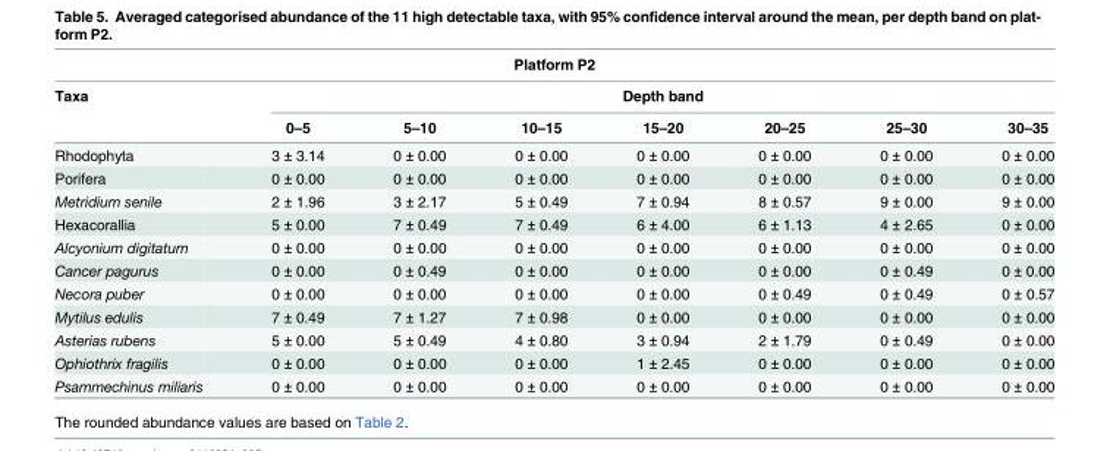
<table><thead><tr><td colspan="8">Platform P2</td></tr><tr><td rowspan="2">Taxa</td><td colspan="7">Depth band</td></tr><tr><td>0–5</td><td>5–10</td><td>10–15</td><td>15–20</td><td>20–25</td><td>25–30</td><td>30–35</td></tr></thead><tbody><tr><td>Rhodophyta</td><td>3 ± 3.14</td><td>0 ± 0.00</td><td>0 ± 0.00</td><td>0 ± 0.00</td><td>0 ± 0.00</td><td>0 ± 0.00</td><td>0 ± 0.00</td></tr><tr><td>Porifera</td><td>0 ± 0.00</td><td>0 ± 0.00</td><td>0 ± 0.00</td><td>0 ± 0.00</td><td>0 ± 0.00</td><td>0 ± 0.00</td><td>0 ± 0.00</td></tr><tr><td>Metridium senile</td><td>2 ± 1.96</td><td>3 ± 2.17</td><td>5 ± 0.49</td><td>7 ± 0.94</td><td>8 ± 0.57</td><td>9 ± 0.00</td><td>9 ± 0.00</td></tr><tr><td>Hexacorallia</td><td>5 ± 0.00</td><td>7 ± 0.49</td><td>7 ± 0.49</td><td>6 ± 4.00</td><td>6 ± 1.13</td><td>4 ± 2.65</td><td>0 ± 0.00</td></tr><tr><td>Alcyonium digitatum</td><td>0 ± 0.00</td><td>0 ± 0.00</td><td>0 ± 0.00</td><td>0 ± 0.00</td><td>0 ± 0.00</td><td>0 ± 0.00</td><td>0 ± 0.00</td></tr><tr><td>Cancer pagurus</td><td>0 ± 0.00</td><td>0 ± 0.49</td><td>0 ± 0.00</td><td>0 ± 0.00</td><td>0 ± 0.00</td><td>0 ± 0.49</td><td>0 ± 0.00</td></tr><tr><td>Necora puber</td><td>0 ± 0.00</td><td>0 ± 0.00</td><td>0 ± 0.00</td><td>0 ± 0.00</td><td>0 ± 0.49</td><td>0 ± 0.49</td><td>0 ± 0.57</td></tr><tr><td>Mytilus edulis</td><td>7 ± 0.49</td><td>7 ± 1.27</td><td>7 ± 0.98</td><td>0 ± 0.00</td><td>0 ± 0.00</td><td>0 ± 0.00</td><td>0 ± 0.00</td></tr><tr><td>Asterias rubens</td><td>5 ± 0.00</td><td>5 ± 0.49</td><td>4 ± 0.80</td><td>3 ± 0.94</td><td>2 ± 1.79</td><td>0 ± 0.49</td><td>0 ± 0.00</td></tr><tr><td>Ophiothrix fragilis</td><td>0 ± 0.00</td><td>0 ± 0.00</td><td>0 ± 0.00</td><td>1 ± 2.45</td><td>0 ± 0.00</td><td>0 ± 0.00</td><td>0 ± 0.00</td></tr><tr><td>Psammechinus miliaris</td><td>0 ± 0.00</td><td>0 ± 0.00</td><td>0 ± 0.00</td><td>0 ± 0.00</td><td>0 ± 0.00</td><td>0 ± 0.00</td><td>0 ± 0.00</td></tr></tbody></table>